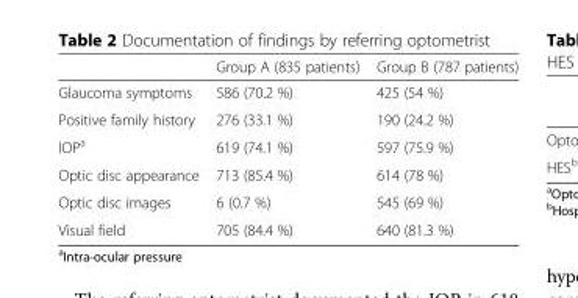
<table><thead><tr><td></td><td>Group A (835 patients)</td><td>Group B (787 patients)</td></tr></thead><tbody><tr><td>Glaucoma symptoms</td><td>586 (70.2 %)</td><td>425 (54 %)</td></tr><tr><td>Positive family history</td><td>276 (33.1 %)</td><td>190 (24.2 %)</td></tr><tr><td>IOP<sup>a</sup></td><td>619 (74.1 %)</td><td>597 (75.9 %)</td></tr><tr><td>Optic disc appearance</td><td>713 (85.4 %)</td><td>614 (78 %)</td></tr><tr><td>Optic disc images</td><td>6 (0.7 %)</td><td>545 (69 %)</td></tr><tr><td>Visual field</td><td>705 (84.4 %)</td><td>640 (81.3 %)</td></tr></tbody></table>